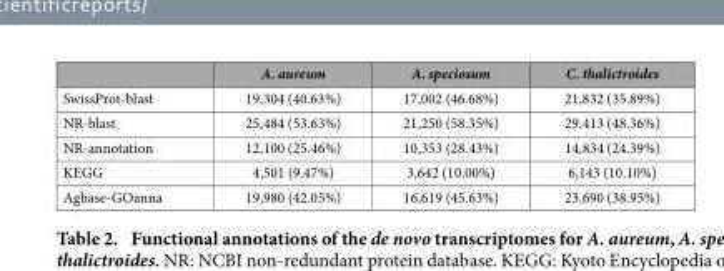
<table><thead><tr><td></td><td>A. aureum</td><td>A. speciosum</td><td>C. thalictroides</td></tr></thead><tbody><tr><td>SwissProt-blast</td><td>19,304 (40.63%)</td><td>17,002 (46.68%)</td><td>21,832 (35.89%)</td></tr><tr><td>NR-blast</td><td>25,484 (53.63%)</td><td>21,250 (58.35%)</td><td>29,413 (48.36%)</td></tr><tr><td>NR-annotation</td><td>12,100 (25.46%)</td><td>10,353 (28.43%)</td><td>14,834 (24.39%)</td></tr><tr><td>KEGG</td><td>4,501 (9.47%)</td><td>3,642 (10.00%)</td><td>6,143 (10.10%)</td></tr><tr><td>Agbase-GOanna</td><td>19,980 (42.05%)</td><td>16,619 (45.63%)</td><td>23,690 (38.95%)</td></tr></tbody></table>